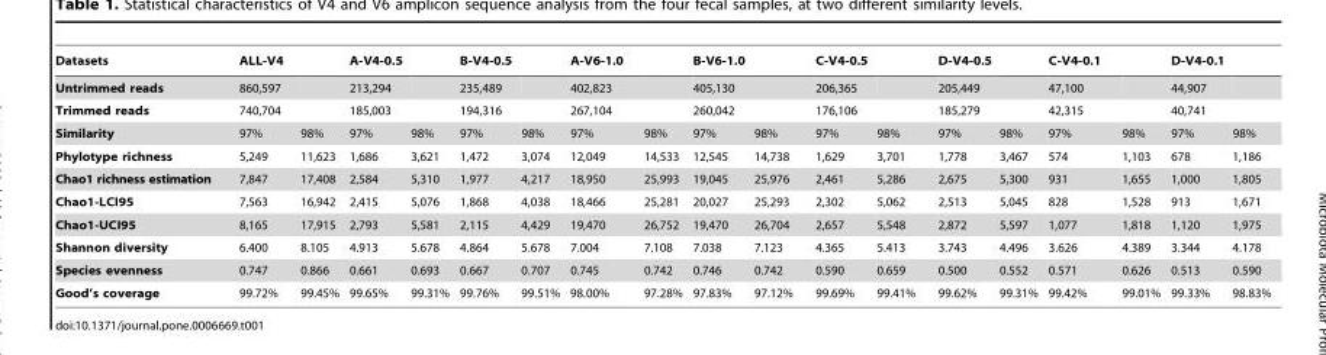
<table><thead><tr><td>Datasets</td><td>ALL-V4</td><td></td><td>A-V4-0.5</td><td></td><td>B-V4-0.5</td><td></td><td>A-V6-1.0</td><td></td><td>B-V6-1.0</td><td></td><td>C-V4-0.5</td><td></td><td>D-V4-0.5</td><td></td><td>C-V4-0.1</td><td></td><td>D-V4-0.1</td><td></td></tr></thead><tbody><tr><td>Untrimmed reads</td><td>860,597</td><td></td><td>213,294</td><td></td><td>235,489</td><td></td><td>402,823</td><td></td><td>405,130</td><td></td><td>206,365</td><td></td><td>205,449</td><td></td><td>47,100</td><td></td><td>44,907</td><td></td></tr><tr><td>Trimmed reads</td><td>740,704</td><td></td><td>185,003</td><td></td><td>194,316</td><td></td><td>267,104</td><td></td><td>260,042</td><td></td><td>176,106</td><td></td><td>185,279</td><td></td><td>42,315</td><td></td><td>40,741</td><td></td></tr><tr><td>Similarity</td><td>97%</td><td>98%</td><td>97%</td><td>98%</td><td>97%</td><td>98%</td><td>97%</td><td>98%</td><td>97%</td><td>98%</td><td>97%</td><td>98%</td><td>97%</td><td>98%</td><td>97%</td><td>98%</td><td>97%</td><td>98%</td></tr><tr><td>Phylotype richness</td><td>5,249</td><td>11,623</td><td>1,686</td><td>3,621</td><td>1,472</td><td>3,074</td><td>12,049</td><td>14,533</td><td>12,545</td><td>14,738</td><td>1,629</td><td>3,701</td><td>1,778</td><td>3,467</td><td>574</td><td>1,103</td><td>678</td><td>1,186</td></tr><tr><td>Chao1 richness estimation</td><td>7,847</td><td>17,408</td><td>2,584</td><td>5,310</td><td>1,977</td><td>4,217</td><td>18,950</td><td>25,993</td><td>19,045</td><td>25,976</td><td>2,461</td><td>5,286</td><td>2,675</td><td>5,300</td><td>931</td><td>1,655</td><td>1,000</td><td>1,805</td></tr><tr><td>Chao1-LCI95</td><td>7,563</td><td>16,942</td><td>2,415</td><td>5,076</td><td>1,868</td><td>4,038</td><td>18,466</td><td>25,281</td><td>20,027</td><td>25,293</td><td>2,302</td><td>5,062</td><td>2,513</td><td>5,045</td><td>828</td><td>1,528</td><td>913</td><td>1,671</td></tr><tr><td>Chao1-UCI95</td><td>8,165</td><td>17,915</td><td>2,793</td><td>5,581</td><td>2,115</td><td>4,429</td><td>19,470</td><td>26,752</td><td>19,470</td><td>26,704</td><td>2,657</td><td>5,548</td><td>2,872</td><td>5,597</td><td>1,077</td><td>1,818</td><td>1,120</td><td>1,975</td></tr><tr><td>Shannon diversity</td><td>6.400</td><td>8.105</td><td>4.913</td><td>5.678</td><td>4.864</td><td>5.678</td><td>7.004</td><td>7.108</td><td>7.038</td><td>7.123</td><td>4.365</td><td>5.413</td><td>3.743</td><td>4.496</td><td>3.626</td><td>4.389</td><td>3.344</td><td>4.178</td></tr><tr><td>Species evenness</td><td>0.747</td><td>0.866</td><td>0.661</td><td>0.693</td><td>0.667</td><td>0.707</td><td>0.745</td><td>0.742</td><td>0.746</td><td>0.742</td><td>0.590</td><td>0.659</td><td>0.500</td><td>0.552</td><td>0.571</td><td>0.626</td><td>0.513</td><td>0.590</td></tr><tr><td>Good’s coverage</td><td>99.72%</td><td>99.45%</td><td>99.65%</td><td>99.31%</td><td>99.76%</td><td>99.51%</td><td>98.00%</td><td>97.28%</td><td>97.83%</td><td>97.12%</td><td>99.69%</td><td>99.41%</td><td>99.62%</td><td>99.31%</td><td>99.42%</td><td>99.01%</td><td>99.33%</td><td>98.83%</td></tr></tbody></table>